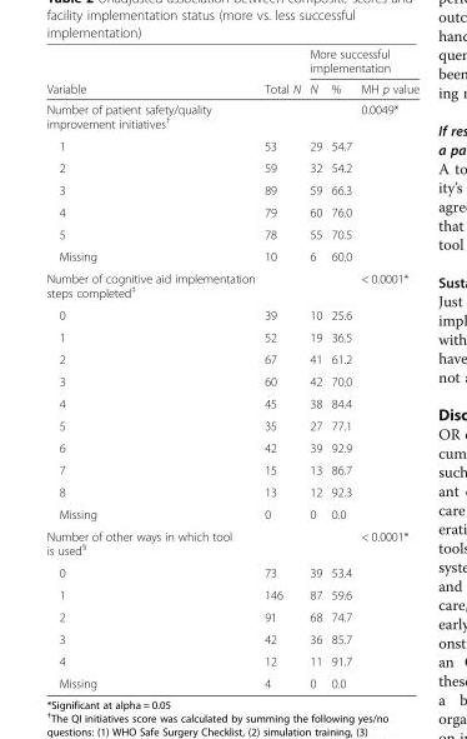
<table><thead><tr><td rowspan="2">Variable</td><td rowspan="2">Total N</td><td colspan="3">More successful implementation</td></tr><tr><td>N</td><td>%</td><td>MH p value</td></tr></thead><tbody><tr><td>Number of patient safety/quality improvement initiatives<sup>†</sup></td><td></td><td></td><td></td><td>0.0049*</td></tr><tr><td>1</td><td>53</td><td>29</td><td>54.7</td><td></td></tr><tr><td>2</td><td>59</td><td>32</td><td>54.2</td><td></td></tr><tr><td>3</td><td>89</td><td>59</td><td>66.3</td><td></td></tr><tr><td>4</td><td>79</td><td>60</td><td>76.0</td><td></td></tr><tr><td>5</td><td>78</td><td>55</td><td>70.5</td><td></td></tr><tr><td>Missing</td><td>10</td><td>6</td><td>60.0</td><td></td></tr><tr><td>Number of cognitive aid implementation steps completed<sup>‡</sup></td><td></td><td></td><td></td><td>&lt; 0.0001*</td></tr><tr><td>0</td><td>39</td><td>10</td><td>25.6</td><td></td></tr><tr><td>1</td><td>52</td><td>19</td><td>36.5</td><td></td></tr><tr><td>2</td><td>67</td><td>41</td><td>61.2</td><td></td></tr><tr><td>3</td><td>60</td><td>42</td><td>70.0</td><td></td></tr><tr><td>4</td><td>45</td><td>38</td><td>84.4</td><td></td></tr><tr><td>5</td><td>35</td><td>27</td><td>77.1</td><td></td></tr><tr><td>6</td><td>42</td><td>39</td><td>92.9</td><td></td></tr><tr><td>7</td><td>15</td><td>13</td><td>86.7</td><td></td></tr><tr><td>8</td><td>13</td><td>12</td><td>92.3</td><td></td></tr><tr><td>Missing</td><td>0</td><td>0</td><td>0.0</td><td></td></tr><tr><td>Number of other ways in which tool is used<sup>§</sup></td><td></td><td></td><td></td><td>&lt; 0.0001*</td></tr><tr><td>0</td><td>73</td><td>39</td><td>53.4</td><td></td></tr><tr><td>1</td><td>146</td><td>87</td><td>59.6</td><td></td></tr><tr><td>2</td><td>91</td><td>68</td><td>74.7</td><td></td></tr><tr><td>3</td><td>42</td><td>36</td><td>85.7</td><td></td></tr><tr><td>4</td><td>12</td><td>11</td><td>91.7</td><td></td></tr><tr><td>Missing</td><td>4</td><td>0</td><td>0.0</td><td></td></tr></tbody></table>